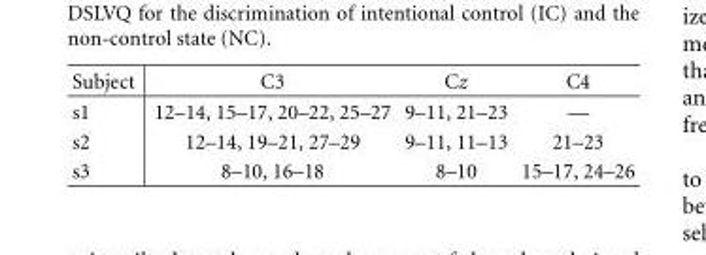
<table><thead><tr><td>Subject</td><td>C3</td><td>Cz</td><td>C4</td></tr></thead><tbody><tr><td>s1</td><td>12–14, 15–17, 20–22, 25–27</td><td>9–11, 21–23</td><td>—</td></tr><tr><td>s2</td><td>12–14, 19–21, 27–29</td><td>9–11, 11–13</td><td>21–23</td></tr><tr><td>s3</td><td>8–10, 16–18</td><td>8–10</td><td>15–17, 24–26</td></tr></tbody></table>